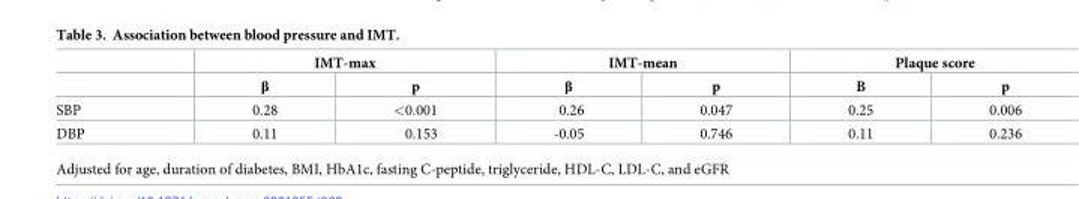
<table><thead><tr><td rowspan="2"></td><td colspan="2">IMT-max</td><td colspan="2">IMT-mean</td><td colspan="2">Plaque score</td></tr><tr><td>β</td><td>p</td><td>β</td><td>p</td><td>B</td><td>p</td></tr></thead><tbody><tr><td>SBP</td><td>0.28</td><td>&lt;0.001</td><td>0.26</td><td>0.047</td><td>0.25</td><td>0.006</td></tr><tr><td>DBP</td><td>0.11</td><td>0.153</td><td>-0.05</td><td>0.746</td><td>0.11</td><td>0.236</td></tr></tbody></table>